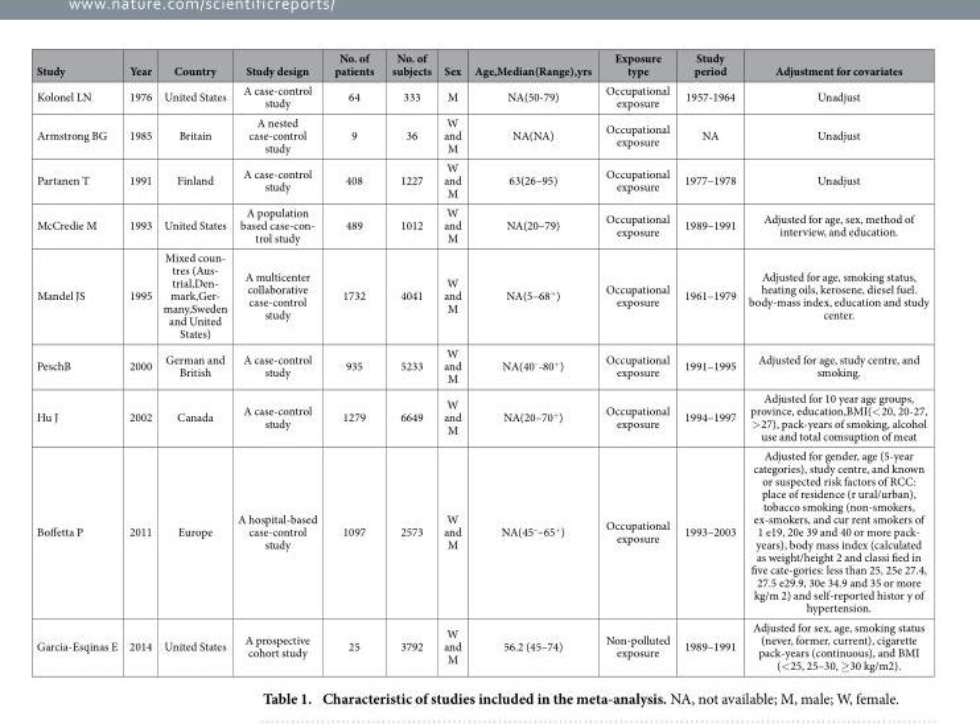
<table><thead><tr><td>Study</td><td>Year</td><td>Country</td><td>Study design</td><td>No. of patients</td><td>No. of subjects</td><td>Sex</td><td>Age,Median(Range),yrs</td><td>Exposure type</td><td>Study period</td><td>Adjustment for covariates</td></tr></thead><tbody><tr><td>Kolonel LN</td><td>1976</td><td>United States</td><td>A case-control study</td><td>64</td><td>333</td><td>M</td><td>NA(50-79)</td><td>Occupational exposure</td><td>1957-1964</td><td>Unadjust</td></tr><tr><td>Armstrong BG</td><td>1985</td><td>Britain</td><td>A nested case-control study</td><td>9</td><td>36</td><td>W and M</td><td>NA(NA)</td><td>Occupational exposure</td><td>NA</td><td>Unadjust</td></tr><tr><td>Partanen T</td><td>1991</td><td>Finland</td><td>A case-control study</td><td>408</td><td>1227</td><td>W and M</td><td>63(26–95)</td><td>Occupational exposure</td><td>1977–1978</td><td>Unadjust</td></tr><tr><td>McCredie M</td><td>1993</td><td>United States</td><td>A population based case-con- trol study</td><td>489</td><td>1012</td><td>W and M</td><td>NA(20–79)</td><td>Occupational exposure</td><td>1989–1991</td><td>Adjusted for age, sex, method of interview, and education.</td></tr><tr><td>Mandel JS</td><td>1995</td><td>Mixed coun- tres (Aus- trial,Den- mark,Ger- many,Sweden and United States)</td><td>A multicenter collaborative case-control study</td><td>1732</td><td>4041</td><td>W and M</td><td>NA(5–68<sup>+</sup>)</td><td>Occupational exposure</td><td>1961–1979</td><td>Adjusted for age, smoking status, heating oils, kerosene, diesel fuel. body-mass index, education and study center.</td></tr><tr><td>PeschB</td><td>2000</td><td>German and British</td><td>A case-control study</td><td>935</td><td>5233</td><td>W and M</td><td>NA(40<sup>–</sup>-80<sup>+</sup>)</td><td>Occupational exposure</td><td>1991–1995</td><td>Adjusted for age, study centre, and smoking.</td></tr><tr><td>Hu J</td><td>2002</td><td>Canada</td><td>A case-control study</td><td>1279</td><td>6649</td><td>W and M</td><td>NA(20–70<sup>+</sup>)</td><td>Occupational exposure</td><td>1994–1997</td><td>Adjusted for 10 year age groups, province, education,BMI(&lt; 20, 20-27, &gt; 27), pack-years of smoking, alcohol use and total comsuption of meat</td></tr><tr><td>Boffetta P</td><td>2011</td><td>Europe</td><td>A hospital-based case-control study</td><td>1097</td><td>2573</td><td>W and M</td><td>NA(45<sup>–</sup>–65<sup>+</sup>)</td><td>Occupational exposure</td><td>1993–2003</td><td>Adjusted for gender, age (5-year categories), study centre, and known or suspected risk factors of RCC: place of residence (r ural/urban), tobacco smoking (non-smokers, ex-smokers, and cur rent smokers of 1 e19, 20e 39 and 40 or more pack- years), body mass index (calculated as weight/height 2 and classi fied in five cate-gories: less than 25, 25e 27.4, 27.5 e29.9, 30e 34.9 and 35 or more kg/m 2) and self-reported histor y of hypertension.</td></tr><tr><td>Garcia-Esqinas E</td><td>2014</td><td>United States</td><td>A prospective cohort study</td><td>25</td><td>3792</td><td>W and M</td><td>56.2 (45–74)</td><td>Non-polluted exposure</td><td>1989–1991</td><td>Adjusted for sex, age, smoking status (never, former, current), cigarette pack-years (continuous), and BMI (&lt;25, 25–30, ≥30 kg/m2).</td></tr></tbody></table>